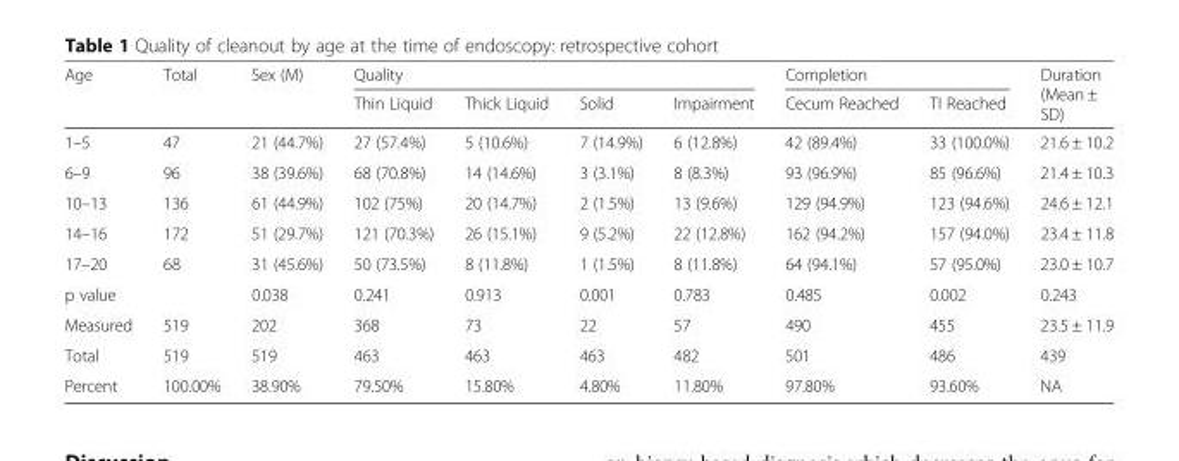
<table><thead><tr><td rowspan="2">Age</td><td rowspan="2">Total</td><td rowspan="2">Sex (M)</td><td colspan="4">Quality</td><td colspan="2">Completion</td><td rowspan="2">Duration (Mean ± SD)</td></tr><tr><td>Thin Liquid</td><td>Thick Liquid</td><td>Solid</td><td>Impairment</td><td>Cecum Reached</td><td>TI Reached</td></tr></thead><tbody><tr><td>1–5</td><td>47</td><td>21 (44.7%)</td><td>27 (57.4%)</td><td>5 (10.6%)</td><td>7 (14.9%)</td><td>6 (12.8%)</td><td>42 (89.4%)</td><td>33 (100.0%)</td><td>21.6 ± 10.2</td></tr><tr><td>6–9</td><td>96</td><td>38 (39.6%)</td><td>68 (70.8%)</td><td>14 (14.6%)</td><td>3 (3.1%)</td><td>8 (8.3%)</td><td>93 (96.9%)</td><td>85 (96.6%)</td><td>21.4 ± 10.3</td></tr><tr><td>10–13</td><td>136</td><td>61 (44.9%)</td><td>102 (75%)</td><td>20 (14.7%)</td><td>2 (1.5%)</td><td>13 (9.6%)</td><td>129 (94.9%)</td><td>123 (94.6%)</td><td>24.6 ± 12.1</td></tr><tr><td>14–16</td><td>172</td><td>51 (29.7%)</td><td>121 (70.3%)</td><td>26 (15.1%)</td><td>9 (5.2%)</td><td>22 (12.8%)</td><td>162 (94.2%)</td><td>157 (94.0%)</td><td>23.4 ± 11.8</td></tr><tr><td>17–20</td><td>68</td><td>31 (45.6%)</td><td>50 (73.5%)</td><td>8 (11.8%)</td><td>1 (1.5%)</td><td>8 (11.8%)</td><td>64 (94.1%)</td><td>57 (95.0%)</td><td>23.0 ± 10.7</td></tr><tr><td>p value</td><td></td><td>0.038</td><td>0.241</td><td>0.913</td><td>0.001</td><td>0.783</td><td>0.485</td><td>0.002</td><td>0.243</td></tr><tr><td>Measured</td><td>519</td><td>202</td><td>368</td><td>73</td><td>22</td><td>57</td><td>490</td><td>455</td><td>23.5 ± 11.9</td></tr><tr><td>Total</td><td>519</td><td>519</td><td>463</td><td>463</td><td>463</td><td>482</td><td>501</td><td>486</td><td>439</td></tr><tr><td>Percent</td><td>100.00%</td><td>38.90%</td><td>79.50%</td><td>15.80%</td><td>4.80%</td><td>11.80%</td><td>97.80%</td><td>93.60%</td><td>NA</td></tr></tbody></table>